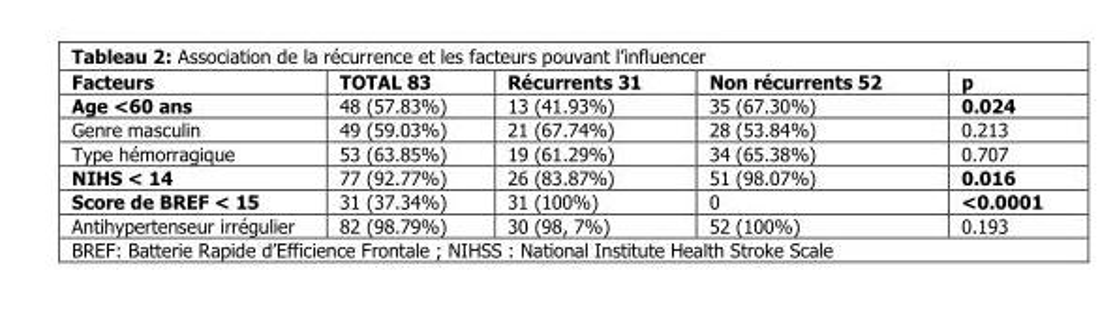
<table><thead><tr><td>Facteurs</td><td>TOTAL 83</td><td>Récurrents 31</td><td>Non récurrents 52</td><td>p</td></tr></thead><tbody><tr><td>Age &lt;60 ans</td><td>48 (57.83%)</td><td>13 (41.93%)</td><td>35 (67.30%)</td><td>0.024</td></tr><tr><td>Genre masculin</td><td>49 (59.03%)</td><td>21 (67.74%)</td><td>28 (53.84%)</td><td>0.213</td></tr><tr><td>Type hémorragique</td><td>53 (63.85%)</td><td>19 (61.29%)</td><td>34 (65.38%)</td><td>0.707</td></tr><tr><td>NIHS &lt; 14</td><td>77 (92.77%)</td><td>26 (83.87%)</td><td>51 (98.07%)</td><td>0.016</td></tr><tr><td>Score de BREF &lt; 15</td><td>31 (37.34%)</td><td>31 (100%)</td><td>0</td><td>&lt;0.0001</td></tr><tr><td>Antihypertenseur irrégulier</td><td>82 (98.79%)</td><td>30 (98, 7%)</td><td>52 (100%)</td><td>0.193</td></tr></tbody></table>